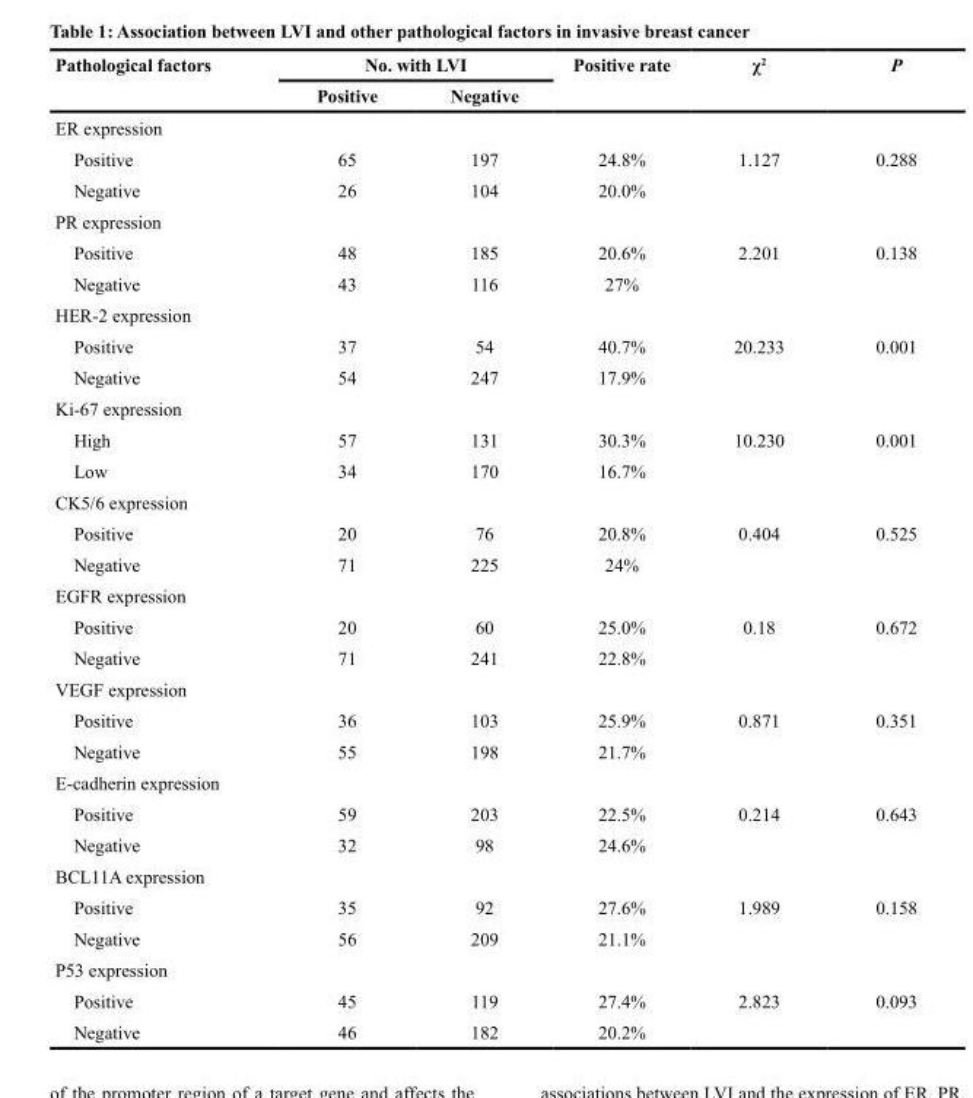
<table><thead><tr><td rowspan="2">Pathological factors</td><td colspan="2">No. with LVI</td><td rowspan="2">Positive rate</td><td rowspan="2">χ<sup>2</sup></td><td rowspan="2">P</td></tr><tr><td>Positive</td><td>Negative</td></tr></thead><tbody><tr><td colspan="6">ER expression</td></tr><tr><td>Positive</td><td>65</td><td>197</td><td>24.8%</td><td>1.127</td><td>0.288</td></tr><tr><td>Negative</td><td>26</td><td>104</td><td>20.0%</td><td></td><td></td></tr><tr><td colspan="6">PR expression</td></tr><tr><td>Positive</td><td>48</td><td>185</td><td>20.6%</td><td>2.201</td><td>0.138</td></tr><tr><td>Negative</td><td>43</td><td>116</td><td>27%</td><td></td><td></td></tr><tr><td colspan="6">HER-2 expression</td></tr><tr><td>Positive</td><td>37</td><td>54</td><td>40.7%</td><td>20.233</td><td>0.001</td></tr><tr><td>Negative</td><td>54</td><td>247</td><td>17.9%</td><td></td><td></td></tr><tr><td colspan="6">Ki-67 expression</td></tr><tr><td>High</td><td>57</td><td>131</td><td>30.3%</td><td>10.230</td><td>0.001</td></tr><tr><td>Low</td><td>34</td><td>170</td><td>16.7%</td><td></td><td></td></tr><tr><td colspan="6">CK5/6 expression</td></tr><tr><td>Positive</td><td>20</td><td>76</td><td>20.8%</td><td>0.404</td><td>0.525</td></tr><tr><td>Negative</td><td>71</td><td>225</td><td>24%</td><td></td><td></td></tr><tr><td colspan="6">EGFR expression</td></tr><tr><td>Positive</td><td>20</td><td>60</td><td>25.0%</td><td>0.18</td><td>0.672</td></tr><tr><td>Negative</td><td>71</td><td>241</td><td>22.8%</td><td></td><td></td></tr><tr><td colspan="6">VEGF expression</td></tr><tr><td>Positive</td><td>36</td><td>103</td><td>25.9%</td><td>0.871</td><td>0.351</td></tr><tr><td>Negative</td><td>55</td><td>198</td><td>21.7%</td><td></td><td></td></tr><tr><td colspan="6">E-cadherin expression</td></tr><tr><td>Positive</td><td>59</td><td>203</td><td>22.5%</td><td>0.214</td><td>0.643</td></tr><tr><td>Negative</td><td>32</td><td>98</td><td>24.6%</td><td></td><td></td></tr><tr><td colspan="6">BCL11A expression</td></tr><tr><td>Positive</td><td>35</td><td>92</td><td>27.6%</td><td>1.989</td><td>0.158</td></tr><tr><td>Negative</td><td>56</td><td>209</td><td>21.1%</td><td></td><td></td></tr><tr><td colspan="6">P53 expression</td></tr><tr><td>Positive</td><td>45</td><td>119</td><td>27.4%</td><td>2.823</td><td>0.093</td></tr><tr><td>Negative</td><td>46</td><td>182</td><td>20.2%</td><td></td><td></td></tr></tbody></table>